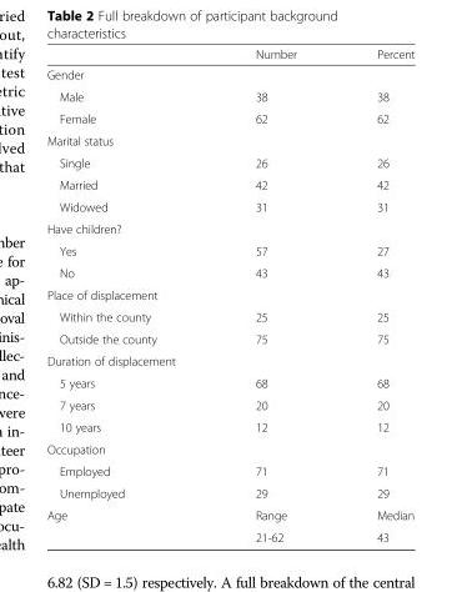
<table><thead><tr><td></td><td>Number</td><td>Percent</td></tr></thead><tbody><tr><td colspan="3">Gender</td></tr><tr><td>Male</td><td>38</td><td>38</td></tr><tr><td>Female</td><td>62</td><td>62</td></tr><tr><td colspan="3">Marital status</td></tr><tr><td>Single</td><td>26</td><td>26</td></tr><tr><td>Married</td><td>42</td><td>42</td></tr><tr><td>Widowed</td><td>31</td><td>31</td></tr><tr><td colspan="3">Have children?</td></tr><tr><td>Yes</td><td>57</td><td>27</td></tr><tr><td>No</td><td>43</td><td>43</td></tr><tr><td colspan="3">Place of displacement</td></tr><tr><td>Within the county</td><td>25</td><td>25</td></tr><tr><td>Outside the county</td><td>75</td><td>75</td></tr><tr><td colspan="3">Duration of displacement</td></tr><tr><td>5 years</td><td>68</td><td>68</td></tr><tr><td>7 years</td><td>20</td><td>20</td></tr><tr><td>10 years</td><td>12</td><td>12</td></tr><tr><td colspan="3">Occupation</td></tr><tr><td>Employed</td><td>71</td><td>71</td></tr><tr><td>Unemployed</td><td>29</td><td>29</td></tr><tr><td rowspan="2">Age</td><td>Range</td><td>Median</td></tr><tr><td>21-62</td><td>43</td></tr></tbody></table>